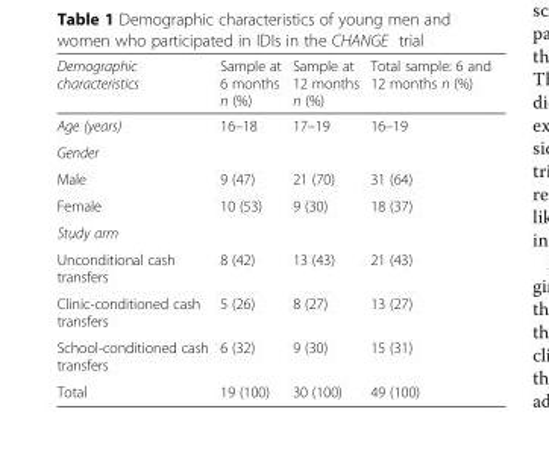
<table><thead><tr><td>Demographic characteristics</td><td>Sample at 6 months n (%)</td><td>Sample at 12 months n (%)</td><td>Total sample: 6 and 12 months n (%)</td></tr></thead><tbody><tr><td>Age (years)</td><td>16–18</td><td>17–19</td><td>16–19</td></tr><tr><td colspan="4">Gender</td></tr><tr><td>Male</td><td>9 (47)</td><td>21 (70)</td><td>31 (64)</td></tr><tr><td>Female</td><td>10 (53)</td><td>9 (30)</td><td>18 (37)</td></tr><tr><td colspan="4">Study arm</td></tr><tr><td>Unconditional cash transfers</td><td>8 (42)</td><td>13 (43)</td><td>21 (43)</td></tr><tr><td>Clinic-conditioned cash transfers</td><td>5 (26)</td><td>8 (27)</td><td>13 (27)</td></tr><tr><td>School-conditioned cash transfers</td><td>6 (32)</td><td>9 (30)</td><td>15 (31)</td></tr><tr><td>Total</td><td>19 (100)</td><td>30 (100)</td><td>49 (100)</td></tr></tbody></table>